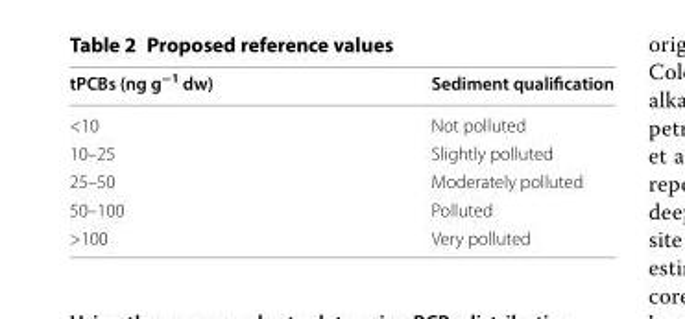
<table><thead><tr><td>tPCBs (ng g<sup>−1</sup> dw)</td><td>Sediment qualification</td></tr></thead><tbody><tr><td>&lt;10</td><td>Not polluted</td></tr><tr><td>10–25</td><td>Slightly polluted</td></tr><tr><td>25–50</td><td>Moderately polluted</td></tr><tr><td>50–100</td><td>Polluted</td></tr><tr><td>&gt;100</td><td>Very polluted</td></tr></tbody></table>